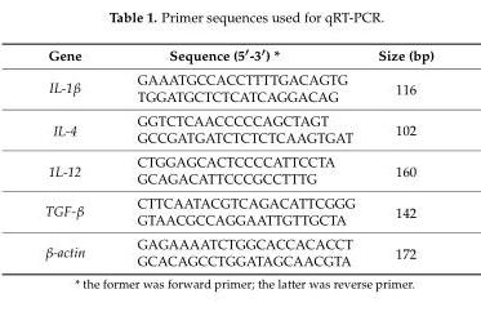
<table><thead><tr><td>Gene</td><td>Sequence (5′-3′) *</td><td>Size (bp)</td></tr></thead><tbody><tr><td rowspan="2">IL-1β</td><td>GAAATGCCACCTTTTGACAGTG</td><td rowspan="2">116</td></tr><tr><td>TGGATGCTCTCATCAGGACAG</td></tr><tr><td rowspan="2">IL-4</td><td>GGTCTCAACCCCCAGCTAGT</td><td rowspan="2">102</td></tr><tr><td>GCCGATGATCTCTCTCAAGTGAT</td></tr><tr><td rowspan="2">1L-12</td><td>CTGGAGCACTCCCCATTCCTA</td><td rowspan="2">160</td></tr><tr><td>GCAGACATTCCCGCCTTTG</td></tr><tr><td rowspan="2">TGF-β</td><td>CTTCAATACGTCAGACATTCGGG</td><td rowspan="2">142</td></tr><tr><td>GTAACGCCAGGAATTGTTGCTA</td></tr><tr><td rowspan="2">β-actin</td><td>GAGAAAATCTGGCACCACACCT</td><td rowspan="2">172</td></tr><tr><td>GCACAGCCTGGATAGCAACGTA</td></tr></tbody></table>